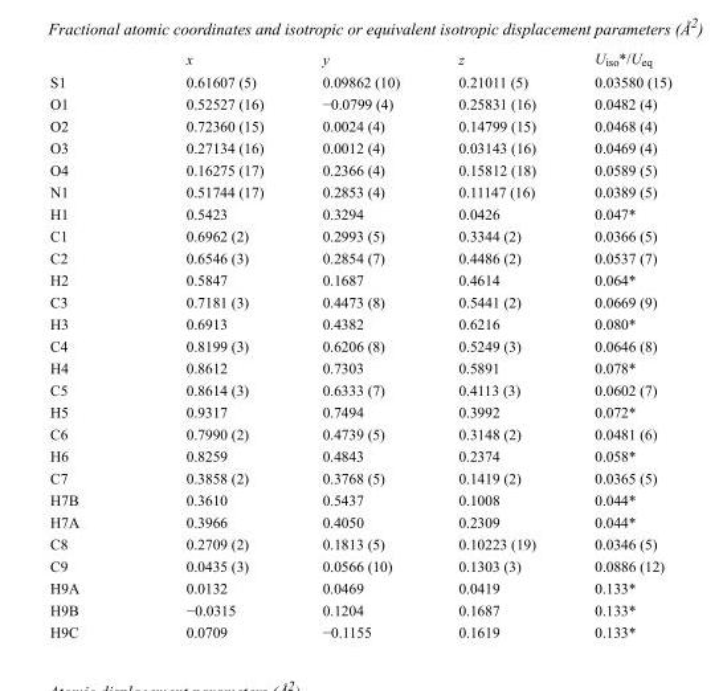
<table><thead><tr><td></td><td>x</td><td>y</td><td>z</td><td>U<sub>iso</sub>*/U<sub>eq</sub></td></tr></thead><tbody><tr><td>S1</td><td>0.61607 (5)</td><td>0.09862 (10)</td><td>0.21011 (5)</td><td>0.03580 (15)</td></tr><tr><td>O1</td><td>0.52527 (16)</td><td>−0.0799 (4)</td><td>0.25831 (16)</td><td>0.0482 (4)</td></tr><tr><td>O2</td><td>0.72360 (15)</td><td>0.0024 (4)</td><td>0.14799 (15)</td><td>0.0468 (4)</td></tr><tr><td>O3</td><td>0.27134 (16)</td><td>0.0012 (4)</td><td>0.03143 (16)</td><td>0.0469 (4)</td></tr><tr><td>O4</td><td>0.16275 (17)</td><td>0.2366 (4)</td><td>0.15812 (18)</td><td>0.0589 (5)</td></tr><tr><td>N1</td><td>0.51744 (17)</td><td>0.2853 (4)</td><td>0.11147 (16)</td><td>0.0389 (5)</td></tr><tr><td>H1</td><td>0.5423</td><td>0.3294</td><td>0.0426</td><td>0.047*</td></tr><tr><td>C1</td><td>0.6962 (2)</td><td>0.2993 (5)</td><td>0.3344 (2)</td><td>0.0366 (5)</td></tr><tr><td>C2</td><td>0.6546 (3)</td><td>0.2854 (7)</td><td>0.4486 (2)</td><td>0.0537 (7)</td></tr><tr><td>H2</td><td>0.5847</td><td>0.1687</td><td>0.4614</td><td>0.064*</td></tr><tr><td>C3</td><td>0.7181 (3)</td><td>0.4473 (8)</td><td>0.5441 (2)</td><td>0.0669 (9)</td></tr><tr><td>H3</td><td>0.6913</td><td>0.4382</td><td>0.6216</td><td>0.080*</td></tr><tr><td>C4</td><td>0.8199 (3)</td><td>0.6206 (8)</td><td>0.5249 (3)</td><td>0.0646 (8)</td></tr><tr><td>H4</td><td>0.8612</td><td>0.7303</td><td>0.5891</td><td>0.078*</td></tr><tr><td>C5</td><td>0.8614 (3)</td><td>0.6333 (7)</td><td>0.4113 (3)</td><td>0.0602 (7)</td></tr><tr><td>H5</td><td>0.9317</td><td>0.7494</td><td>0.3992</td><td>0.072*</td></tr><tr><td>C6</td><td>0.7990 (2)</td><td>0.4739 (5)</td><td>0.3148 (2)</td><td>0.0481 (6)</td></tr><tr><td>H6</td><td>0.8259</td><td>0.4843</td><td>0.2374</td><td>0.058*</td></tr><tr><td>C7</td><td>0.3858 (2)</td><td>0.3768 (5)</td><td>0.1419 (2)</td><td>0.0365 (5)</td></tr><tr><td>H7B</td><td>0.3610</td><td>0.5437</td><td>0.1008</td><td>0.044*</td></tr><tr><td>H7A</td><td>0.3966</td><td>0.4050</td><td>0.2309</td><td>0.044*</td></tr><tr><td>C8</td><td>0.2709 (2)</td><td>0.1813 (5)</td><td>0.10223 (19)</td><td>0.0346 (5)</td></tr><tr><td>C9</td><td>0.0435 (3)</td><td>0.0566 (10)</td><td>0.1303 (3)</td><td>0.0886 (12)</td></tr><tr><td>H9A</td><td>0.0132</td><td>0.0469</td><td>0.0419</td><td>0.133*</td></tr><tr><td>H9B</td><td>−0.0315</td><td>0.1204</td><td>0.1687</td><td>0.133*</td></tr><tr><td>H9C</td><td>0.0709</td><td>−0.1155</td><td>0.1619</td><td>0.133*</td></tr></tbody></table>